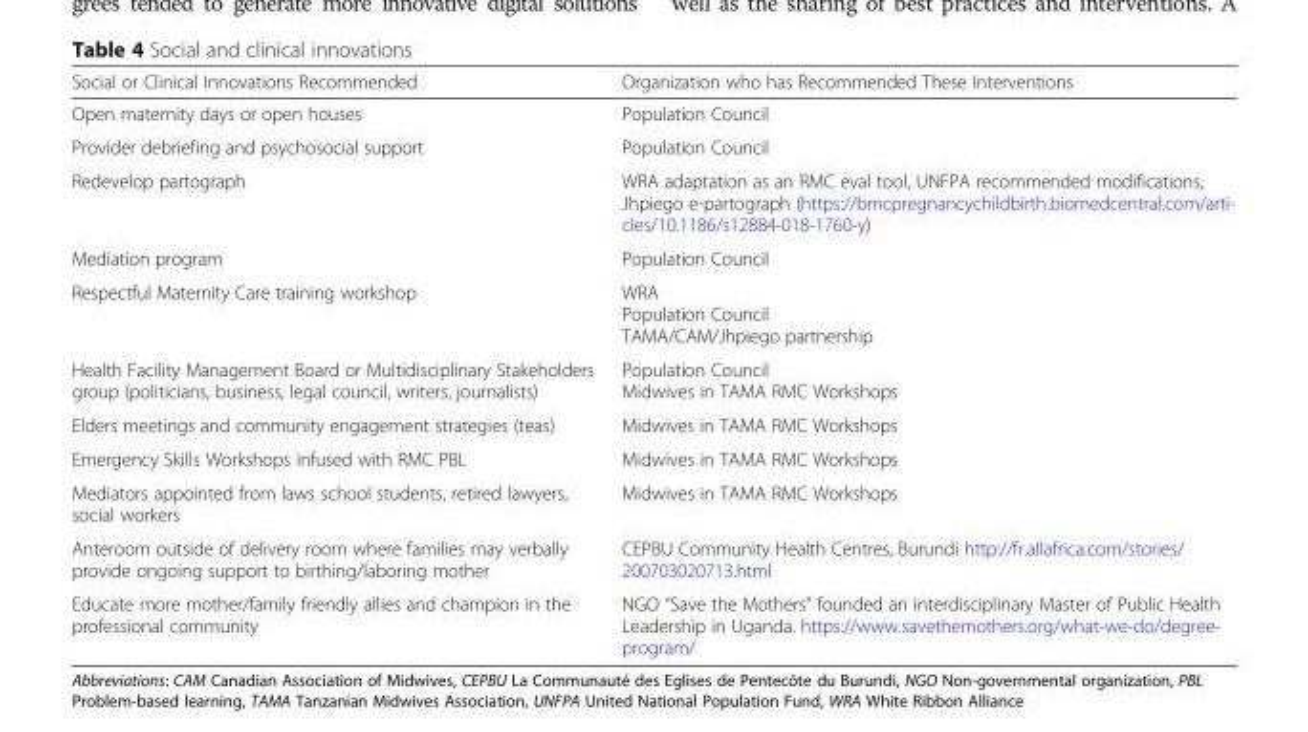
<table><thead><tr><td>Social or Clinical Innovations Recommended</td><td>Organization who has Recommended These Interventions</td></tr></thead><tbody><tr><td>Open maternity days or open houses</td><td>Population Council</td></tr><tr><td>Provider debriefing and psychosocial support</td><td>Population Council</td></tr><tr><td>Redevelop partograph</td><td>WRA adaptation as an RMC eval tool, UNFPA recommended modifications, Jhpiego e-partograph (https://bmcpregnancychildbirth.biomedcentral.com/arti- cles/10.1186/s12884-018-1760-y)</td></tr><tr><td>Mediation program</td><td>Population Council</td></tr><tr><td>Respectful Maternity Care training workshop</td><td>WRA Population Council TAMA/CAM/Jhpiego partnership</td></tr><tr><td>Health Facility Management Board or Multidisciplinary Stakeholders group (politicians, business, legal council, writers, journalists)</td><td>Population Council Midwives in TAMA RMC Workshops</td></tr><tr><td>Elders meetings and community engagement strategies (teas)</td><td>Midwives in TAMA RMC Workshops</td></tr><tr><td>Emergency Skills Workshops infused with RMC PBL</td><td>Midwives in TAMA RMC Workshops</td></tr><tr><td>Mediators appointed from laws school students, retired lawyers, social workers</td><td>Midwives in TAMA RMC Workshops</td></tr><tr><td>Anteroom outside of delivery room where families may verbally provide ongoing support to birthing/laboring mother</td><td>CEPBU Community Health Centres, Burundi http://fr.allafrica.com/stories/ 200703020713.html</td></tr><tr><td>Educate more mother/family friendly allies and champion in the professional community</td><td>NGO “Save the Mothers” founded an interdisciplinary Master of Public Health Leadership in Uganda. https://www.savethemothers.org/what-we-do/degree- program/</td></tr></tbody></table>